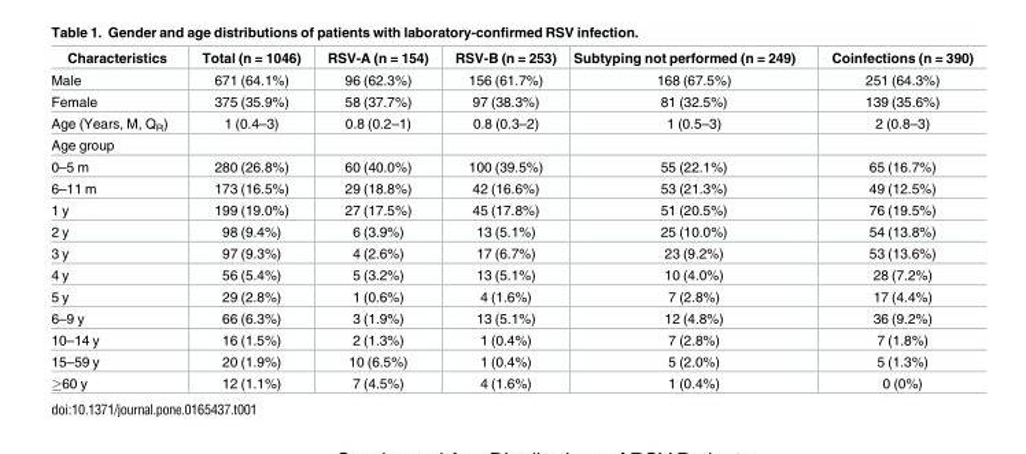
<table><thead><tr><td>Characteristics</td><td>Total (n = 1046)</td><td>RSV-A (n = 154)</td><td>RSV-B (n = 253)</td><td>Subtyping not performed (n = 249)</td><td>Coinfections (n = 390)</td></tr></thead><tbody><tr><td>Male</td><td>671 (64.1%)</td><td>96 (62.3%)</td><td>156 (61.7%)</td><td>168 (67.5%)</td><td>251 (64.3%)</td></tr><tr><td>Female</td><td>375 (35.9%)</td><td>58 (37.7%)</td><td>97 (38.3%)</td><td>81 (32.5%)</td><td>139 (35.6%)</td></tr><tr><td>Age (Years, M, Q<sub>R</sub>)</td><td>1 (0.4–3)</td><td>0.8 (0.2–1)</td><td>0.8 (0.3–2)</td><td>1 (0.5–3)</td><td>2 (0.8–3)</td></tr><tr><td colspan="6">Age group</td></tr><tr><td>0–5 m</td><td>280 (26.8%)</td><td>60 (40.0%)</td><td>100 (39.5%)</td><td>55 (22.1%)</td><td>65 (16.7%)</td></tr><tr><td>6–11 m</td><td>173 (16.5%)</td><td>29 (18.8%)</td><td>42 (16.6%)</td><td>53 (21.3%)</td><td>49 (12.5%)</td></tr><tr><td>1 y</td><td>199 (19.0%)</td><td>27 (17.5%)</td><td>45 (17.8%)</td><td>51 (20.5%)</td><td>76 (19.5%)</td></tr><tr><td>2 y</td><td>98 (9.4%)</td><td>6 (3.9%)</td><td>13 (5.1%)</td><td>25 (10.0%)</td><td>54 (13.8%)</td></tr><tr><td>3 y</td><td>97 (9.3%)</td><td>4 (2.6%)</td><td>17 (6.7%)</td><td>23 (9.2%)</td><td>53 (13.6%)</td></tr><tr><td>4 y</td><td>56 (5.4%)</td><td>5 (3.2%)</td><td>13 (5.1%)</td><td>10 (4.0%)</td><td>28 (7.2%)</td></tr><tr><td>5 y</td><td>29 (2.8%)</td><td>1 (0.6%)</td><td>4 (1.6%)</td><td>7 (2.8%)</td><td>17 (4.4%)</td></tr><tr><td>6–9 y</td><td>66 (6.3%)</td><td>3 (1.9%)</td><td>13 (5.1%)</td><td>12 (4.8%)</td><td>36 (9.2%)</td></tr><tr><td>10–14 y</td><td>16 (1.5%)</td><td>2 (1.3%)</td><td>1 (0.4%)</td><td>7 (2.8%)</td><td>7 (1.8%)</td></tr><tr><td>15–59 y</td><td>20 (1.9%)</td><td>10 (6.5%)</td><td>1 (0.4%)</td><td>5 (2.0%)</td><td>5 (1.3%)</td></tr><tr><td>≥60 y</td><td>12 (1.1%)</td><td>7 (4.5%)</td><td>4 (1.6%)</td><td>1 (0.4%)</td><td>0 (0%)</td></tr></tbody></table>